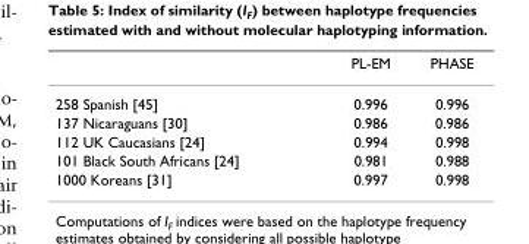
<table><thead><tr><td></td><td>PL-EM</td><td>PHASE</td></tr></thead><tbody><tr><td>258 Spanish [45]</td><td>0.996</td><td>0.996</td></tr><tr><td>137 Nicaraguans [30]</td><td>0.986</td><td>0.986</td></tr><tr><td>112 UK Caucasians [24]</td><td>0.994</td><td>0.998</td></tr><tr><td>101 Black South Africans [24]</td><td>0.981</td><td>0.988</td></tr><tr><td>1000 Koreans [31]</td><td>0.997</td><td>0.998</td></tr></tbody></table>